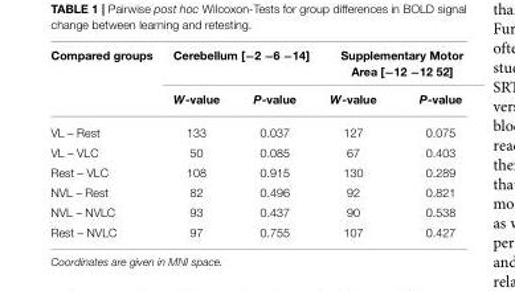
<table><thead><tr><td rowspan="2">Compared groups</td><td colspan="2">Cerebellum [−2 −6 −14]</td><td colspan="2">Supplementary Motor Area [−12 −12 52]</td></tr><tr><td>W-value</td><td>P-value</td><td>W-value</td><td>P-value</td></tr></thead><tbody><tr><td>VL – Rest</td><td>133</td><td>0.037</td><td>127</td><td>0.075</td></tr><tr><td>VL – VLC</td><td>50</td><td>0.085</td><td>67</td><td>0.403</td></tr><tr><td>Rest – VLC</td><td>108</td><td>0.915</td><td>130</td><td>0.289</td></tr><tr><td>NVL – Rest</td><td>82</td><td>0.496</td><td>92</td><td>0.821</td></tr><tr><td>NVL – NVLC</td><td>93</td><td>0.437</td><td>90</td><td>0.538</td></tr><tr><td>Rest – NVLC</td><td>97</td><td>0.755</td><td>107</td><td>0.427</td></tr></tbody></table>